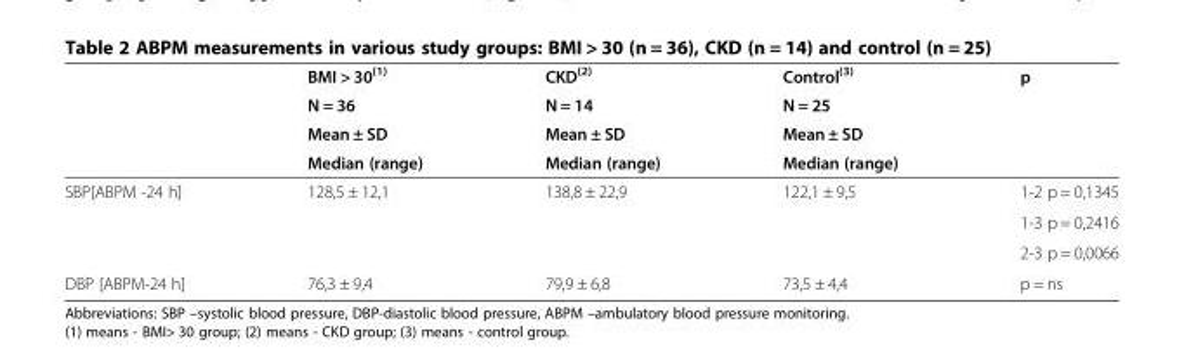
<table><thead><tr><td rowspan="4"></td><td rowspan="4">BMI &gt; 30<sup>(1)</sup> N = 36 Mean ± SD Median (range)</td><td rowspan="4">CKD<sup>(2)</sup> N = 14 Mean ± SD Median (range)</td><td rowspan="4">Control<sup>(3)</sup> N = 25 Mean ± SD Median (range)</td><td rowspan="4">p</td></tr><tr></tr><tr></tr><tr></tr></thead><tbody><tr><td rowspan="3">SBP[ABPM -24 h]</td><td rowspan="3">128,5 ± 12,1</td><td rowspan="3">138,8 ± 22,9</td><td rowspan="3">122,1 ± 9,5</td><td>1-2 p = 0,1345</td></tr><tr><td>1-3 p = 0,2416</td></tr><tr><td>2-3 p = 0,0066</td></tr><tr><td>DBP [ABPM-24 h]</td><td>76,3 ± 9,4</td><td>79,9 ± 6,8</td><td>73,5 ± 4,4</td><td>p = ns</td></tr></tbody></table>